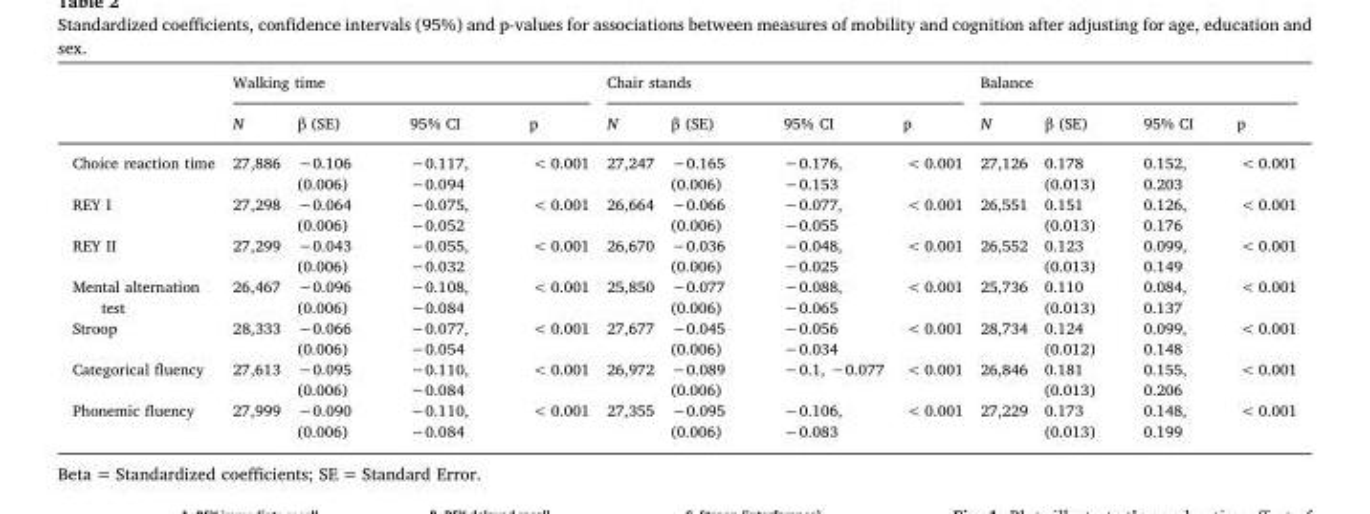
<table><thead><tr><td rowspan="2"></td><td colspan="4">Walking time</td><td colspan="4">Chair stands</td><td colspan="4">Balance</td></tr><tr><td>N</td><td>β (SE)</td><td>95% CI</td><td>p</td><td>N</td><td>β (SE)</td><td>95% CI</td><td>p</td><td>N</td><td>β (SE)</td><td>95% CI</td><td>p</td></tr></thead><tbody><tr><td>Choice reaction time</td><td>27,886</td><td>−0.106 (0.006)</td><td>−0.117, −0.094</td><td>&lt; 0.001</td><td>27,247</td><td>−0.165 (0.006)</td><td>−0.176, −0.153</td><td>&lt; 0.001</td><td>27,126</td><td>0.178 (0.013)</td><td>0.152, 0.203</td><td>&lt; 0.001</td></tr><tr><td>REY I</td><td>27,298</td><td>−0.064 (0.006)</td><td>−0.075, −0.052</td><td>&lt; 0.001</td><td>26,664</td><td>−0.066 (0.006)</td><td>−0.077, −0.055</td><td>&lt; 0.001</td><td>26,551</td><td>0.151 (0.013)</td><td>0.126, 0.176</td><td>&lt; 0.001</td></tr><tr><td>REY II</td><td>27,299</td><td>−0.043 (0.006)</td><td>−0.055, −0.032</td><td>&lt; 0.001</td><td>26,670</td><td>−0.036 (0.006)</td><td>−0.048, −0.025</td><td>&lt; 0.001</td><td>26,552</td><td>0.123 (0.013)</td><td>0.099, 0.149</td><td>&lt; 0.001</td></tr><tr><td>Mental alternation test</td><td>26,467</td><td>−0.096 (0.006)</td><td>−0.108, −0.084</td><td>&lt; 0.001</td><td>25,850</td><td>−0.077 (0.006)</td><td>−0.088, −0.065</td><td>&lt; 0.001</td><td>25,736</td><td>0.110 (0.013)</td><td>0.084, 0.137</td><td>&lt; 0.001</td></tr><tr><td>Stroop</td><td>28,333</td><td>−0.066 (0.006)</td><td>−0.077, −0.054</td><td>&lt; 0.001</td><td>27,677</td><td>−0.045 (0.006)</td><td>−0.056 −0.034</td><td>&lt; 0.001</td><td>28,734</td><td>0.124 (0.012)</td><td>0.099, 0.148</td><td>&lt; 0.001</td></tr><tr><td>Categorical fluency</td><td>27,613</td><td>−0.095 (0.006)</td><td>−0.110, −0.084</td><td>&lt; 0.001</td><td>26,972</td><td>−0.089 (0.006)</td><td>−0.1, −0.077</td><td>&lt; 0.001</td><td>26,846</td><td>0.181 (0.013)</td><td>0.155, 0.206</td><td>&lt; 0.001</td></tr><tr><td>Phonemic fluency</td><td>27,999</td><td>−0.090 (0.006)</td><td>−0.110, −0.084</td><td>&lt; 0.001</td><td>27,355</td><td>−0.095 (0.006)</td><td>−0.106, −0.083</td><td>&lt; 0.001</td><td>27,229</td><td>0.173 (0.013)</td><td>0.148, 0.199</td><td>&lt; 0.001</td></tr></tbody></table>